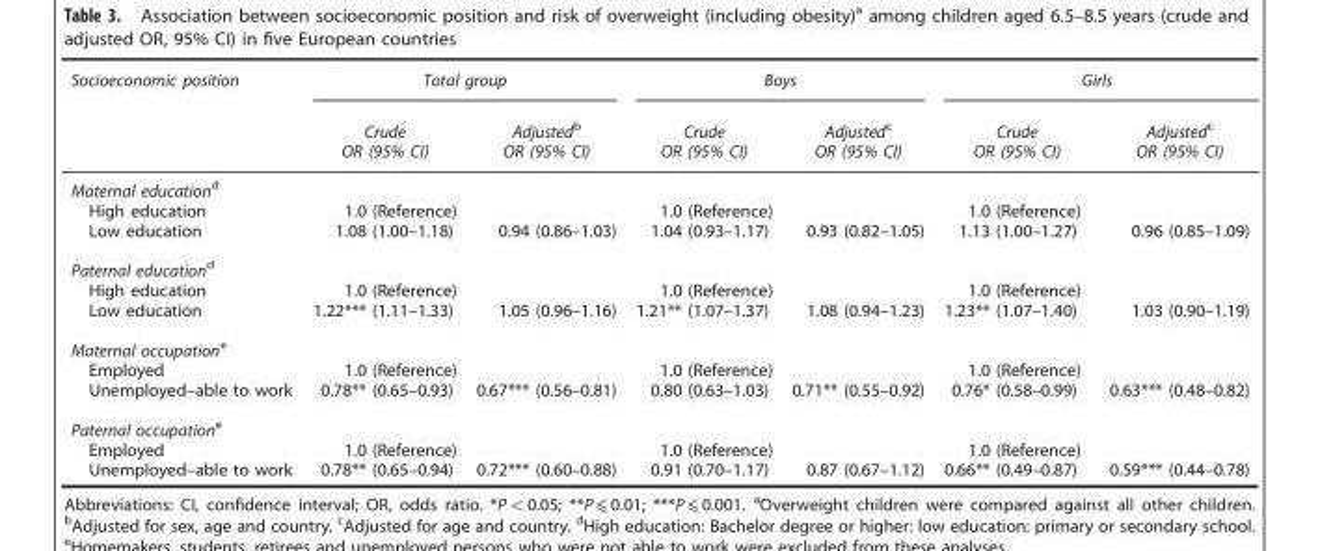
<table><thead><tr><td rowspan="2">Socioeconomic position</td><td colspan="2">Total group</td><td colspan="2">Boys</td><td colspan="2">Girls</td></tr><tr><td>Crude OR (95% CI)</td><td>Adjusted<sup>b</sup> OR (95% CI)</td><td>Crude OR (95% CI)</td><td>Adjusted<sup>c</sup> OR (95% CI)</td><td>Crude OR (95% CI)</td><td>Adjusted<sup>c</sup> OR (95% CI)</td></tr></thead><tbody><tr><td colspan="7">Maternal education<sup>d</sup></td></tr><tr><td>High education</td><td>1.0 (Reference)</td><td></td><td>1.0 (Reference)</td><td></td><td>1.0 (Reference)</td><td></td></tr><tr><td>Low education</td><td>1.08 (1.00–1.18)</td><td>0.94 (0.86–1.03)</td><td>1.04 (0.93–1.17)</td><td>0.93 (0.82–1.05)</td><td>1.13 (1.00–1.27)</td><td>0.96 (0.85–1.09)</td></tr><tr><td colspan="7">Paternal education<sup>d</sup></td></tr><tr><td>High education</td><td>1.0 (Reference)</td><td></td><td>1.0 (Reference)</td><td></td><td>1.0 (Reference)</td><td></td></tr><tr><td>Low education</td><td>1.22*** (1.11–1.33)</td><td>1.05 (0.96–1.16)</td><td>1.21** (1.07–1.37)</td><td>1.08 (0.94–1.23)</td><td>1.23** (1.07–1.40)</td><td>1.03 (0.90–1.19)</td></tr><tr><td colspan="7">Maternal occupation<sup>e</sup></td></tr><tr><td>Employed</td><td>1.0 (Reference)</td><td></td><td>1.0 (Reference)</td><td></td><td>1.0 (Reference)</td><td></td></tr><tr><td>Unemployed–able to work</td><td>0.78** (0.65–0.93)</td><td>0.67*** (0.56–0.81)</td><td>0.80 (0.63–1.03)</td><td>0.71** (0.55–0.92)</td><td>0.76* (0.58–0.99)</td><td>0.63*** (0.48–0.82)</td></tr><tr><td colspan="7">Paternal occupation<sup>e</sup></td></tr><tr><td>Employed</td><td>1.0 (Reference)</td><td></td><td>1.0 (Reference)</td><td></td><td>1.0 (Reference)</td><td></td></tr><tr><td>Unemployed–able to work</td><td>0.78** (0.65–0.94)</td><td>0.72*** (0.60–0.88)</td><td>0.91 (0.70–1.17)</td><td>0.87 (0.67–1.12)</td><td>0.66** (0.49–0.87)</td><td>0.59*** (0.44–0.78)</td></tr></tbody></table>